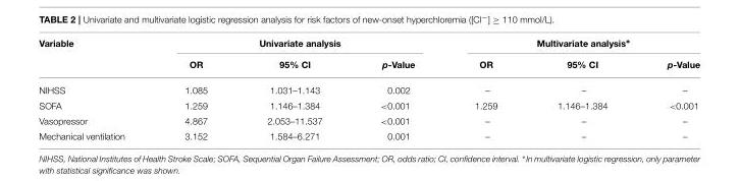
<table><thead><tr><td rowspan="2">Variable</td><td colspan="3">Univariate analysis</td><td colspan="3">Multivariate analysis∗</td></tr><tr><td>OR</td><td>95% CI</td><td>p-Value</td><td>OR</td><td>95% CI</td><td>p-Value</td></tr></thead><tbody><tr><td>NIHSS</td><td>1.085</td><td>1.031–1.143</td><td>0.002</td><td>–</td><td>–</td><td>–</td></tr><tr><td>SOFA</td><td>1.259</td><td>1.146–1.384</td><td>&lt;0.001</td><td>1.259</td><td>1.146–1.384</td><td>&lt;0.001</td></tr><tr><td>Vasopressor</td><td>4.867</td><td>2.053–11.537</td><td>&lt;0.001</td><td>–</td><td>–</td><td>–</td></tr><tr><td>Mechanical ventilation</td><td>3.152</td><td>1.584–6.271</td><td>0.001</td><td>–</td><td>–</td><td>–</td></tr></tbody></table>